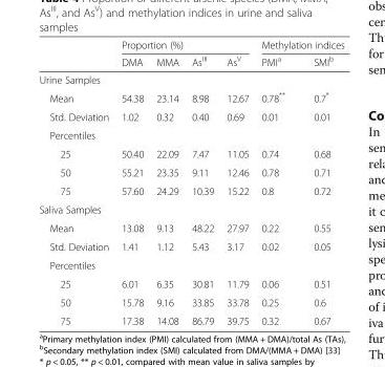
<table><thead><tr><td rowspan="2"></td><td colspan="4">Proportion (%)</td><td colspan="2">Methylation indices</td></tr><tr><td>DMA</td><td>MMA</td><td>As<sup>III</sup></td><td>As<sup>V</sup></td><td>PMI<sup>a</sup></td><td>SMI<sup>b</sup></td></tr></thead><tbody><tr><td colspan="7">Urine Samples</td></tr><tr><td>Mean</td><td>54.38</td><td>23.14</td><td>8.98</td><td>12.67</td><td>0.78**</td><td>0.7*</td></tr><tr><td>Std. Deviation</td><td>1.02</td><td>0.32</td><td>0.40</td><td>0.69</td><td>0.01</td><td>0.01</td></tr><tr><td colspan="7">Percentiles</td></tr><tr><td>25</td><td>50.40</td><td>22.09</td><td>7.47</td><td>11.05</td><td>0.74</td><td>0.68</td></tr><tr><td>50</td><td>55.21</td><td>23.35</td><td>9.11</td><td>12.46</td><td>0.78</td><td>0.71</td></tr><tr><td>75</td><td>57.60</td><td>24.29</td><td>10.39</td><td>15.22</td><td>0.8</td><td>0.72</td></tr><tr><td colspan="7">Saliva Samples</td></tr><tr><td>Mean</td><td>13.08</td><td>9.13</td><td>48.22</td><td>27.97</td><td>0.22</td><td>0.55</td></tr><tr><td>Std. Deviation</td><td>1.41</td><td>1.12</td><td>5.43</td><td>3.17</td><td>0.02</td><td>0.05</td></tr><tr><td colspan="7">Percentiles</td></tr><tr><td>25</td><td>6.01</td><td>6.35</td><td>30.81</td><td>11.79</td><td>0.06</td><td>0.51</td></tr><tr><td>50</td><td>15.78</td><td>9.16</td><td>33.85</td><td>33.78</td><td>0.25</td><td>0.6</td></tr><tr><td>75</td><td>17.38</td><td>14.08</td><td>86.79</td><td>39.75</td><td>0.32</td><td>0.67</td></tr></tbody></table>